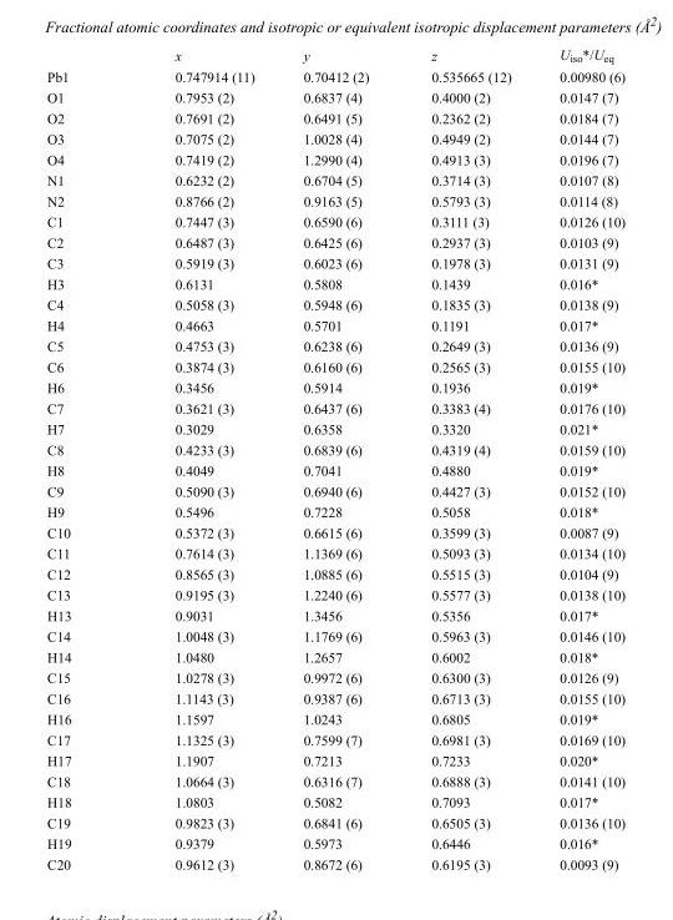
<table><thead><tr><td></td><td>x</td><td>y</td><td>z</td><td>U<sub>iso</sub>*/U<sub>eq</sub></td></tr></thead><tbody><tr><td>Pb1</td><td>0.747914 (11)</td><td>0.70412 (2)</td><td>0.535665 (12)</td><td>0.00980 (6)</td></tr><tr><td>O1</td><td>0.7953 (2)</td><td>0.6837 (4)</td><td>0.4000 (2)</td><td>0.0147 (7)</td></tr><tr><td>O2</td><td>0.7691 (2)</td><td>0.6491 (5)</td><td>0.2362 (2)</td><td>0.0184 (7)</td></tr><tr><td>O3</td><td>0.7075 (2)</td><td>1.0028 (4)</td><td>0.4949 (2)</td><td>0.0144 (7)</td></tr><tr><td>O4</td><td>0.7419 (2)</td><td>1.2990 (4)</td><td>0.4913 (3)</td><td>0.0196 (7)</td></tr><tr><td>N1</td><td>0.6232 (2)</td><td>0.6704 (5)</td><td>0.3714 (3)</td><td>0.0107 (8)</td></tr><tr><td>N2</td><td>0.8766 (2)</td><td>0.9163 (5)</td><td>0.5793 (3)</td><td>0.0114 (8)</td></tr><tr><td>C1</td><td>0.7447 (3)</td><td>0.6590 (6)</td><td>0.3111 (3)</td><td>0.0126 (10)</td></tr><tr><td>C2</td><td>0.6487 (3)</td><td>0.6425 (6)</td><td>0.2937 (3)</td><td>0.0103 (9)</td></tr><tr><td>C3</td><td>0.5919 (3)</td><td>0.6023 (6)</td><td>0.1978 (3)</td><td>0.0131 (9)</td></tr><tr><td>H3</td><td>0.6131</td><td>0.5808</td><td>0.1439</td><td>0.016*</td></tr><tr><td>C4</td><td>0.5058 (3)</td><td>0.5948 (6)</td><td>0.1835 (3)</td><td>0.0138 (9)</td></tr><tr><td>H4</td><td>0.4663</td><td>0.5701</td><td>0.1191</td><td>0.017*</td></tr><tr><td>C5</td><td>0.4753 (3)</td><td>0.6238 (6)</td><td>0.2649 (3)</td><td>0.0136 (9)</td></tr><tr><td>C6</td><td>0.3874 (3)</td><td>0.6160 (6)</td><td>0.2565 (3)</td><td>0.0155 (10)</td></tr><tr><td>H6</td><td>0.3456</td><td>0.5914</td><td>0.1936</td><td>0.019*</td></tr><tr><td>C7</td><td>0.3621 (3)</td><td>0.6437 (6)</td><td>0.3383 (4)</td><td>0.0176 (10)</td></tr><tr><td>H7</td><td>0.3029</td><td>0.6358</td><td>0.3320</td><td>0.021*</td></tr><tr><td>C8</td><td>0.4233 (3)</td><td>0.6839 (6)</td><td>0.4319 (4)</td><td>0.0159 (10)</td></tr><tr><td>H8</td><td>0.4049</td><td>0.7041</td><td>0.4880</td><td>0.019*</td></tr><tr><td>C9</td><td>0.5090 (3)</td><td>0.6940 (6)</td><td>0.4427 (3)</td><td>0.0152 (10)</td></tr><tr><td>H9</td><td>0.5496</td><td>0.7228</td><td>0.5058</td><td>0.018*</td></tr><tr><td>C10</td><td>0.5372 (3)</td><td>0.6615 (6)</td><td>0.3599 (3)</td><td>0.0087 (9)</td></tr><tr><td>C11</td><td>0.7614 (3)</td><td>1.1369 (6)</td><td>0.5093 (3)</td><td>0.0134 (10)</td></tr><tr><td>C12</td><td>0.8565 (3)</td><td>1.0885 (6)</td><td>0.5515 (3)</td><td>0.0104 (9)</td></tr><tr><td>C13</td><td>0.9195 (3)</td><td>1.2240 (6)</td><td>0.5577 (3)</td><td>0.0138 (10)</td></tr><tr><td>H13</td><td>0.9031</td><td>1.3456</td><td>0.5356</td><td>0.017*</td></tr><tr><td>C14</td><td>1.0048 (3)</td><td>1.1769 (6)</td><td>0.5963 (3)</td><td>0.0146 (10)</td></tr><tr><td>H14</td><td>1.0480</td><td>1.2657</td><td>0.6002</td><td>0.018*</td></tr><tr><td>C15</td><td>1.0278 (3)</td><td>0.9972 (6)</td><td>0.6300 (3)</td><td>0.0126 (9)</td></tr><tr><td>C16</td><td>1.1143 (3)</td><td>0.9387 (6)</td><td>0.6713 (3)</td><td>0.0155 (10)</td></tr><tr><td>H16</td><td>1.1597</td><td>1.0243</td><td>0.6805</td><td>0.019*</td></tr><tr><td>C17</td><td>1.1325 (3)</td><td>0.7599 (7)</td><td>0.6981 (3)</td><td>0.0169 (10)</td></tr><tr><td>H17</td><td>1.1907</td><td>0.7213</td><td>0.7233</td><td>0.020*</td></tr><tr><td>C18</td><td>1.0664 (3)</td><td>0.6316 (7)</td><td>0.6888 (3)</td><td>0.0141 (10)</td></tr><tr><td>H18</td><td>1.0803</td><td>0.5082</td><td>0.7093</td><td>0.017*</td></tr><tr><td>C19</td><td>0.9823 (3)</td><td>0.6841 (6)</td><td>0.6505 (3)</td><td>0.0136 (10)</td></tr><tr><td>H19</td><td>0.9379</td><td>0.5973</td><td>0.6446</td><td>0.016*</td></tr><tr><td>C20</td><td>0.9612 (3)</td><td>0.8672 (6)</td><td>0.6195 (3)</td><td>0.0093 (9)</td></tr></tbody></table>